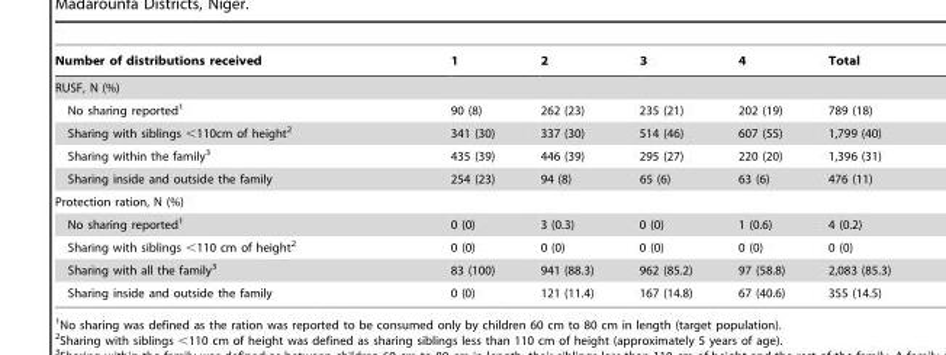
<table><thead><tr><td>Number of distributions received</td><td>1</td><td>2</td><td>3</td><td>4</td><td>Total</td></tr></thead><tbody><tr><td colspan="6">RUSF, N (%)</td></tr><tr><td>No sharing reported<sup>1</sup></td><td>90 (8)</td><td>262 (23)</td><td>235 (21)</td><td>202 (19)</td><td>789 (18)</td></tr><tr><td>Sharing with siblings &lt;110cm of height<sup>2</sup></td><td>341 (30)</td><td>337 (30)</td><td>514 (46)</td><td>607 (55)</td><td>1,799 (40)</td></tr><tr><td>Sharing within the family<sup>3</sup></td><td>435 (39)</td><td>446 (39)</td><td>295 (27)</td><td>220 (20)</td><td>1,396 (31)</td></tr><tr><td>Sharing inside and outside the family</td><td>254 (23)</td><td>94 (8)</td><td>65 (6)</td><td>63 (6)</td><td>476 (11)</td></tr><tr><td colspan="6">Protection ration, N (%)</td></tr><tr><td>No sharing reported<sup>1</sup></td><td>0 (0)</td><td>3 (0.3)</td><td>0 (0)</td><td>1 (0.6)</td><td>4 (0.2)</td></tr><tr><td>Sharing with siblings &lt;110 cm of height<sup>2</sup></td><td>0 (0)</td><td>0 (0)</td><td>0 (0)</td><td>0 (0)</td><td>0 (0)</td></tr><tr><td>Sharing with all the family<sup>3</sup></td><td>83 (100)</td><td>941 (88.3)</td><td>962 (85.2)</td><td>97 (58.8)</td><td>2,083 (85.3)</td></tr><tr><td>Sharing inside and outside the family</td><td>0 (0)</td><td>121 (11.4)</td><td>167 (14.8)</td><td>67 (40.6)</td><td>355 (14.5)</td></tr></tbody></table>